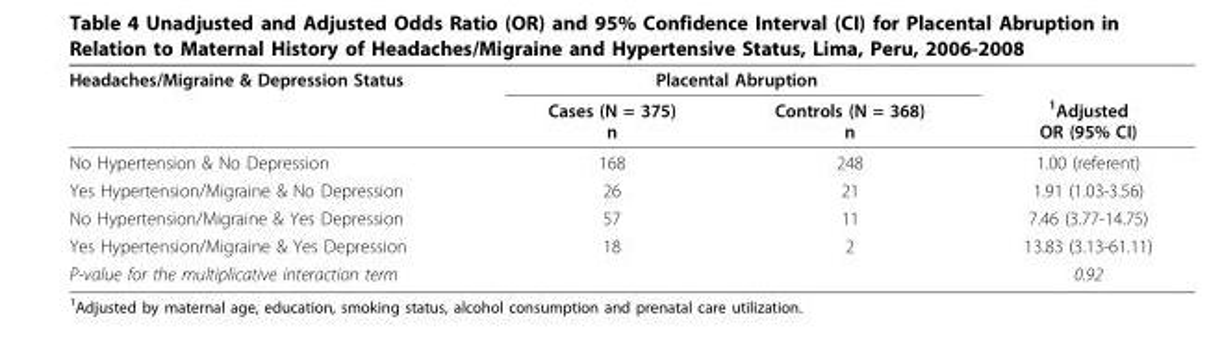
<table><thead><tr><td rowspan="2">Headaches/Migraine &amp; Depression Status</td><td colspan="2">Placental Abruption</td><td rowspan="2"><sup>1</sup>Adjusted OR (95% CI)</td></tr><tr><td>Cases (N = 375) n</td><td>Controls (N = 368) n</td></tr></thead><tbody><tr><td>No Hypertension &amp; No Depression</td><td>168</td><td>248</td><td>1.00 (referent)</td></tr><tr><td>Yes Hypertension/Migraine &amp; No Depression</td><td>26</td><td>21</td><td>1.91 (1.03-3.56)</td></tr><tr><td>No Hypertension/Migraine &amp; Yes Depression</td><td>57</td><td>11</td><td>7.46 (3.77-14.75)</td></tr><tr><td>Yes Hypertension/Migraine &amp; Yes Depression</td><td>18</td><td>2</td><td>13.83 (3.13-61.11)</td></tr><tr><td>P-value for the multiplicative interaction term</td><td></td><td></td><td>0.92</td></tr></tbody></table>